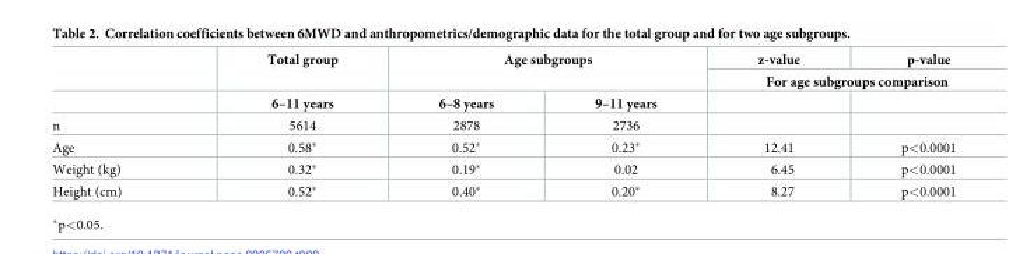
<table><thead><tr><td rowspan="3"></td><td rowspan="3">Total group 6–11 years</td><td rowspan="2" colspan="2">Age subgroups</td><td>z-value</td><td>p-value</td></tr><tr><td colspan="2">For age subgroups comparison</td></tr><tr><td>6–8 years</td><td>9–11 years</td><td></td><td></td></tr></thead><tbody><tr><td>n</td><td>5614</td><td>2878</td><td>2736</td><td></td><td></td></tr><tr><td>Age</td><td>0.58*</td><td>0.52*</td><td>0.23*</td><td>12.41</td><td>p&lt;0.0001</td></tr><tr><td>Weight (kg)</td><td>0.32*</td><td>0.19*</td><td>0.02</td><td>6.45</td><td>p&lt;0.0001</td></tr><tr><td>Height (cm)</td><td>0.52*</td><td>0.40*</td><td>0.20*</td><td>8.27</td><td>p&lt;0.0001</td></tr></tbody></table>